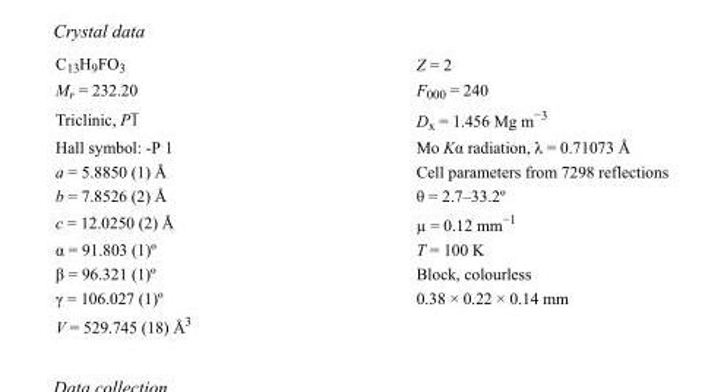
<table><tbody><tr><td>C<sub>13</sub>H<sub>9</sub>FO<sub>3</sub></td><td>Z = 2</td></tr><tr><td>M<sub>r</sub> = 232.20</td><td>F000 = 240</td></tr><tr><td>Triclinic, P1</td><td>D<sub>x</sub> = 1.456 Mg m<sup>−3</sup></td></tr><tr><td>Hall symbol: -P 1</td><td>Mo Kα radiation, λ = 0.71073 Å</td></tr><tr><td>a = 5.8850 (1) Å</td><td>Cell parameters from 7298 reflections</td></tr><tr><td>b = 7.8526 (2) Å</td><td>θ = 2.7–33.2º</td></tr><tr><td>c = 12.0250 (2) Å</td><td>µ = 0.12 mm<sup>−1</sup></td></tr><tr><td>α = 91.803 (1)º</td><td>T = 100 K</td></tr><tr><td>β = 96.321 (1)º</td><td>Block, colourless</td></tr><tr><td>γ = 106.027 (1)º</td><td>0.38 × 0.22 × 0.14 mm</td></tr><tr><td>V = 529.745 (18) Å3</td><td></td></tr></tbody></table>